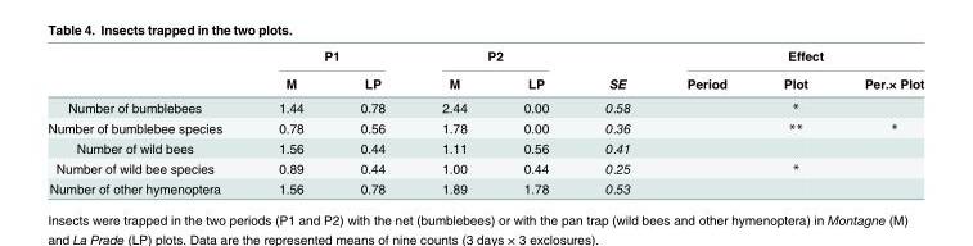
<table><thead><tr><td rowspan="2"></td><td colspan="2">P1</td><td colspan="2">P2</td><td rowspan="2">SE</td><td colspan="3">Effect</td></tr><tr><td>M</td><td>LP</td><td>M</td><td>LP</td><td>Period</td><td>Plot</td><td>Per.× Plot</td></tr></thead><tbody><tr><td>Number of bumblebees</td><td>1.44</td><td>0.78</td><td>2.44</td><td>0.00</td><td>0.58</td><td></td><td>*</td><td></td></tr><tr><td>Number of bumblebee species</td><td>0.78</td><td>0.56</td><td>1.78</td><td>0.00</td><td>0.36</td><td></td><td>**</td><td>*</td></tr><tr><td>Number of wild bees</td><td>1.56</td><td>0.44</td><td>1.11</td><td>0.56</td><td>0.41</td><td></td><td></td><td></td></tr><tr><td>Number of wild bee species</td><td>0.89</td><td>0.44</td><td>1.00</td><td>0.44</td><td>0.25</td><td></td><td>*</td><td></td></tr><tr><td>Number of other hymenoptera</td><td>1.56</td><td>0.78</td><td>1.89</td><td>1.78</td><td>0.53</td><td></td><td></td><td></td></tr></tbody></table>